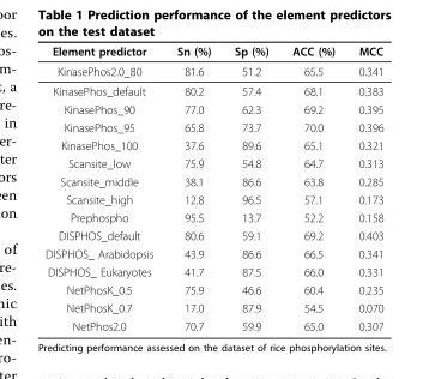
<table><thead><tr><td>Element predictor</td><td>Sn (%)</td><td>Sp (%)</td><td>ACC (%)</td><td>MCC</td></tr></thead><tbody><tr><td>KinasePhos2.0_80</td><td>81.6</td><td>51.2</td><td>65.5</td><td>0.341</td></tr><tr><td>KinasePhos_default</td><td>80.2</td><td>57.4</td><td>68.1</td><td>0.383</td></tr><tr><td>KinasePhos_90</td><td>77.0</td><td>62.3</td><td>69.2</td><td>0.395</td></tr><tr><td>KinasePhos_95</td><td>65.8</td><td>73.7</td><td>70.0</td><td>0.396</td></tr><tr><td>KinasePhos_100</td><td>37.6</td><td>89.6</td><td>65.1</td><td>0.321</td></tr><tr><td>Scansite_low</td><td>75.9</td><td>54.8</td><td>64.7</td><td>0.313</td></tr><tr><td>Scansite_middle</td><td>38.1</td><td>86.6</td><td>63.8</td><td>0.285</td></tr><tr><td>Scansite_high</td><td>12.8</td><td>96.5</td><td>57.1</td><td>0.173</td></tr><tr><td>Prephospho</td><td>95.5</td><td>13.7</td><td>52.2</td><td>0.158</td></tr><tr><td>DISPHOS_default</td><td>80.6</td><td>59.1</td><td>69.2</td><td>0.403</td></tr><tr><td>DISPHOS_ Arabidopsis</td><td>43.9</td><td>86.6</td><td>66.5</td><td>0.341</td></tr><tr><td>DISPHOS_ Eukaryotes</td><td>41.7</td><td>87.5</td><td>66.0</td><td>0.331</td></tr><tr><td>NetPhosK_0.5</td><td>75.9</td><td>46.6</td><td>60.4</td><td>0.235</td></tr><tr><td>NetPhosK_0.7</td><td>17.0</td><td>87.9</td><td>54.5</td><td>0.070</td></tr><tr><td>NetPhos2.0</td><td>70.7</td><td>59.9</td><td>65.0</td><td>0.307</td></tr></tbody></table>